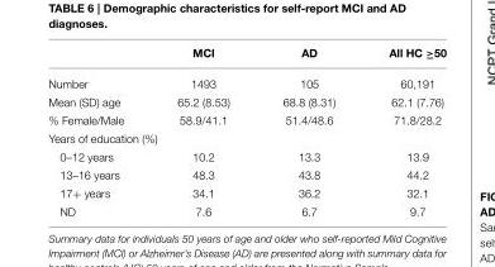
<table><thead><tr><td></td><td>MCI</td><td>AD</td><td>All HC ≥50</td></tr></thead><tbody><tr><td>Number</td><td>1493</td><td>105</td><td>60,191</td></tr><tr><td>Mean (SD) age</td><td>65.2 (8.53)</td><td>68.8 (8.31)</td><td>62.1 (7.76)</td></tr><tr><td>% Female/Male</td><td>58.9/41.1</td><td>51.4/48.6</td><td>71.8/28.2</td></tr><tr><td colspan="4">Years of education (%)</td></tr><tr><td>0–12 years</td><td>10.2</td><td>13.3</td><td>13.9</td></tr><tr><td>13–16 years</td><td>48.3</td><td>43.8</td><td>44.2</td></tr><tr><td>17+ years</td><td>34.1</td><td>36.2</td><td>32.1</td></tr><tr><td>ND</td><td>7.6</td><td>6.7</td><td>9.7</td></tr></tbody></table>